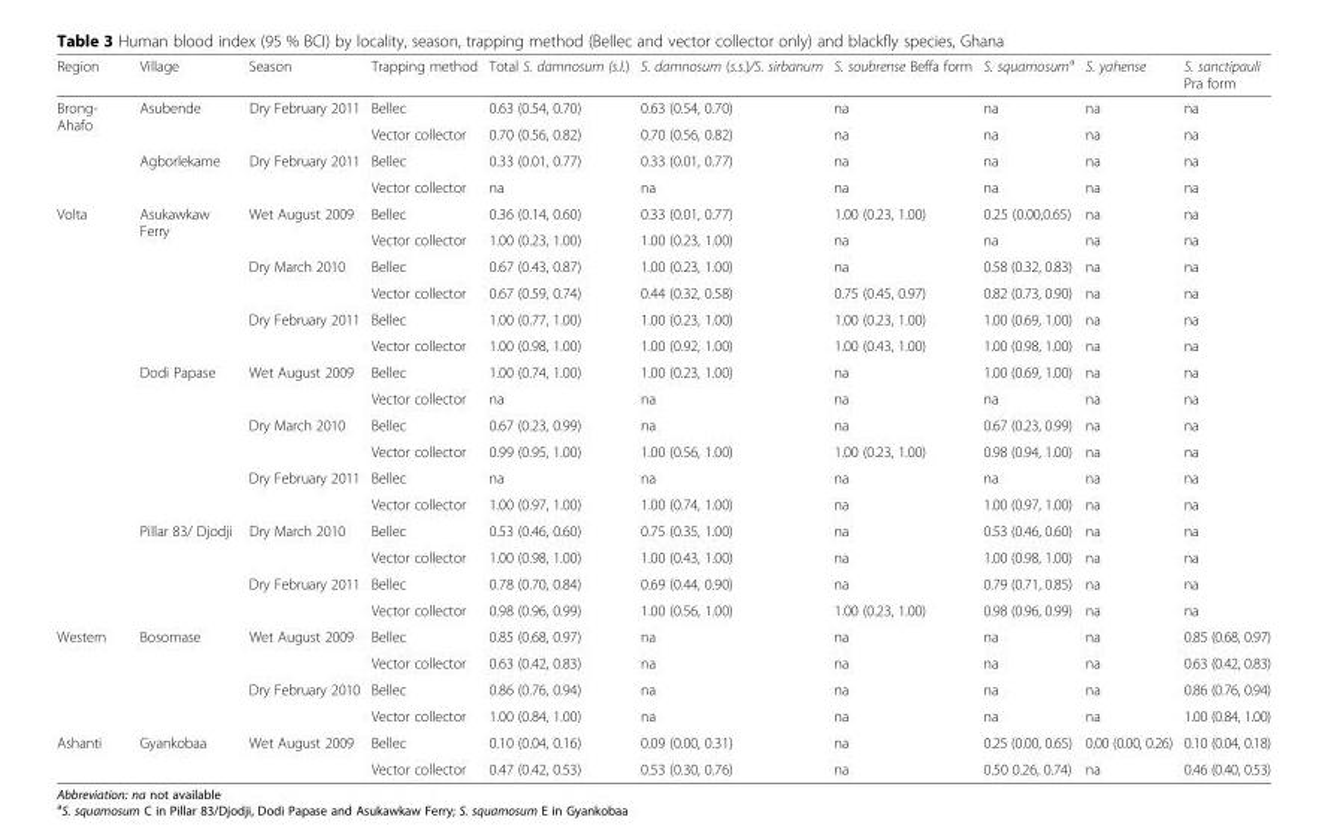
<table><thead><tr><td>Region</td><td>Village</td><td>Season</td><td>Trapping method</td><td>Total S. damnosum (s.l.)</td><td>S. damnosum (s.s.)/S. sirbanum</td><td>S. soubrense Beffa form</td><td>S. squamosum<sup>a</sup></td><td>S. yahense</td><td>S. sanctipauli Pra form</td></tr></thead><tbody><tr><td rowspan="4">Brong- Ahafo</td><td rowspan="2">Asubende</td><td rowspan="2">Dry February 2011</td><td>Bellec</td><td>0.63 (0.54, 0.70)</td><td>0.63 (0.54, 0.70)</td><td>na</td><td>na</td><td>na</td><td>na</td></tr><tr><td>Vector collector</td><td>0.70 (0.56, 0.82)</td><td>0.70 (0.56, 0.82)</td><td>na</td><td>na</td><td>na</td><td>na</td></tr><tr><td rowspan="2">Agborlekame</td><td rowspan="2">Dry February 2011</td><td>Bellec</td><td>0.33 (0.01, 0.77)</td><td>0.33 (0.01, 0.77)</td><td>na</td><td>na</td><td>na</td><td>na</td></tr><tr><td>Vector collector</td><td>na</td><td>na</td><td>na</td><td>na</td><td>na</td><td>na</td></tr><tr><td rowspan="16">Volta</td><td rowspan="6">Asukawkaw Ferry</td><td rowspan="2">Wet August 2009</td><td>Bellec</td><td>0.36 (0.14, 0.60)</td><td>0.33 (0.01, 0.77)</td><td>1.00 (0.23, 1.00)</td><td>0.25 (0.00,0.65)</td><td>na</td><td>na</td></tr><tr><td>Vector collector</td><td>1.00 (0.23, 1.00)</td><td>1.00 (0.23, 1.00)</td><td>na</td><td>na</td><td>na</td><td>na</td></tr><tr><td rowspan="2">Dry March 2010</td><td>Bellec</td><td>0.67 (0.43, 0.87)</td><td>1.00 (0.23, 1.00)</td><td>na</td><td>0.58 (0.32, 0.83)</td><td>na</td><td>na</td></tr><tr><td>Vector collector</td><td>0.67 (0.59, 0.74)</td><td>0.44 (0.32, 0.58)</td><td>0.75 (0.45, 0.97)</td><td>0.82 (0.73, 0.90)</td><td>na</td><td>na</td></tr><tr><td rowspan="2">Dry February 2011</td><td>Bellec</td><td>1.00 (0.77, 1.00)</td><td>1.00 (0.23, 1.00)</td><td>1.00 (0.23, 1.00)</td><td>1.00 (0.69, 1.00)</td><td>na</td><td>na</td></tr><tr><td>Vector collector</td><td>1.00 (0.98, 1.00)</td><td>1.00 (0.92, 1.00)</td><td>1.00 (0.43, 1.00)</td><td>1.00 (0.98, 1.00)</td><td>na</td><td>na</td></tr><tr><td rowspan="6">Dodi Papase</td><td rowspan="2">Wet August 2009</td><td>Bellec</td><td>1.00 (0.74, 1.00)</td><td>1.00 (0.23, 1.00)</td><td>na</td><td>1.00 (0.69, 1.00)</td><td>na</td><td>na</td></tr><tr><td>Vector collector</td><td>na</td><td>na</td><td>na</td><td>na</td><td>na</td><td>na</td></tr><tr><td rowspan="2">Dry March 2010</td><td>Bellec</td><td>0.67 (0.23, 0.99)</td><td>na</td><td>na</td><td>0.67 (0.23, 0.99)</td><td>na</td><td>na</td></tr><tr><td>Vector collector</td><td>0.99 (0.95, 1.00)</td><td>1.00 (0.56, 1.00)</td><td>1.00 (0.23, 1.00)</td><td>0.98 (0.94, 1.00)</td><td>na</td><td>na</td></tr><tr><td rowspan="2">Dry February 2011</td><td>Bellec</td><td>na</td><td>na</td><td>na</td><td>na</td><td>na</td><td>na</td></tr><tr><td>Vector collector</td><td>1.00 (0.97, 1.00)</td><td>1.00 (0.74, 1.00)</td><td>na</td><td>1.00 (0.97, 1.00)</td><td>na</td><td>na</td></tr><tr><td rowspan="4">Pillar 83/ Djodji</td><td rowspan="2">Dry March 2010</td><td>Bellec</td><td>0.53 (0.46, 0.60)</td><td>0.75 (0.35, 1.00)</td><td>na</td><td>0.53 (0.46, 0.60)</td><td>na</td><td>na</td></tr><tr><td>Vector collector</td><td>1.00 (0.98, 1.00)</td><td>1.00 (0.43, 1.00)</td><td>na</td><td>1.00 (0.98, 1.00)</td><td>na</td><td>na</td></tr><tr><td rowspan="2">Dry February 2011</td><td>Bellec</td><td>0.78 (0.70, 0.84)</td><td>0.69 (0.44, 0.90)</td><td>na</td><td>0.79 (0.71, 0.85)</td><td>na</td><td>na</td></tr><tr><td>Vector collector</td><td>0.98 (0.96, 0.99)</td><td>1.00 (0.56, 1.00)</td><td>1.00 (0.23, 1.00)</td><td>0.98 (0.96, 0.99)</td><td>na</td><td>na</td></tr><tr><td rowspan="4">Western</td><td rowspan="4">Bosomase</td><td rowspan="2">Wet August 2009</td><td>Bellec</td><td>0.85 (0.68, 0.97)</td><td>na</td><td>na</td><td>na</td><td>na</td><td>0.85 (0.68, 0.97)</td></tr><tr><td>Vector collector</td><td>0.63 (0.42, 0.83)</td><td>na</td><td>na</td><td>na</td><td>na</td><td>0.63 (0.42, 0.83)</td></tr><tr><td rowspan="2">Dry February 2010</td><td>Bellec</td><td>0.86 (0.76, 0.94)</td><td>na</td><td>na</td><td>na</td><td>na</td><td>0.86 (0.76, 0.94)</td></tr><tr><td>Vector collector</td><td>1.00 (0.84, 1.00)</td><td>na</td><td>na</td><td>na</td><td>na</td><td>1.00 (0.84, 1.00)</td></tr><tr><td rowspan="2">Ashanti</td><td rowspan="2">Gyankobaa</td><td rowspan="2">Wet August 2009</td><td>Bellec</td><td>0.10 (0.04, 0.16)</td><td>0.09 (0.00, 0.31)</td><td>na</td><td>0.25 (0.00, 0.65)</td><td>0.00 (0.00, 0.26)</td><td>0.10 (0.04, 0.18)</td></tr><tr><td>Vector collector</td><td>0.47 (0.42, 0.53)</td><td>0.53 (0.30, 0.76)</td><td>na</td><td>0.50 0.26, 0.74)</td><td>na</td><td>0.46 (0.40, 0.53)</td></tr></tbody></table>